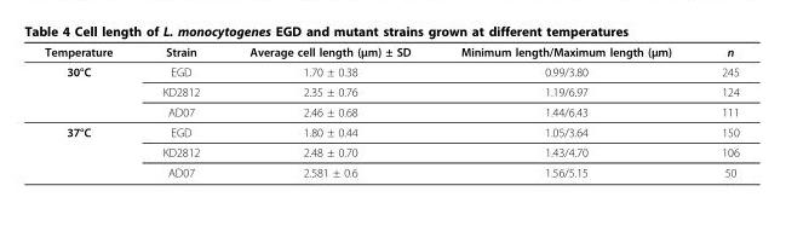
<table><thead><tr><td>Temperature</td><td>Strain</td><td>Average cell length (μm) ± SD</td><td>Minimum length/Maximum length (μm)</td><td>n</td></tr></thead><tbody><tr><td rowspan="3">30°C</td><td>EGD</td><td>1.70 ± 0.38</td><td>0.99/3.80</td><td>245</td></tr><tr><td>KD2812</td><td>2.35 ± 0.76</td><td>1.19/6.97</td><td>124</td></tr><tr><td>AD07</td><td>2.46 ± 0.68</td><td>1.44/6.43</td><td>111</td></tr><tr><td rowspan="3">37°C</td><td>EGD</td><td>1.80 ± 0.44</td><td>1.05/3.64</td><td>150</td></tr><tr><td>KD2812</td><td>2.48 ± 0.70</td><td>1.43/4.70</td><td>106</td></tr><tr><td>AD07</td><td>2.581 ± 0.6</td><td>1.56/5.15</td><td>50</td></tr></tbody></table>